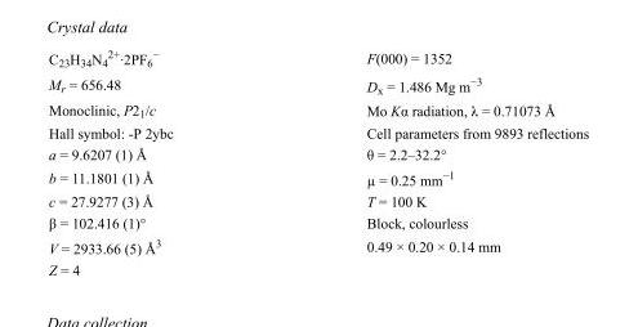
<table><tbody><tr><td>C<sub>23</sub>H<sub>34</sub>N<sub>4</sub> <sup>2+</sup>·2PF<sub>6</sub> <sup>−</sup></td><td>F(000) = 1352</td></tr><tr><td>M<sub>r</sub> = 656.48</td><td>D<sub>x</sub> = 1.486 Mg m<sup>−3</sup></td></tr><tr><td>Monoclinic, P2<sub>1</sub>/c</td><td>Mo Kα radiation, λ = 0.71073 Å</td></tr><tr><td>Hall symbol: -P 2ybc</td><td>Cell parameters from 9893 reflections</td></tr><tr><td>a = 9.6207 (1) Å</td><td>θ = 2.2–32.2°</td></tr><tr><td>b = 11.1801 (1) Å</td><td>µ = 0.25 mm<sup>−1</sup></td></tr><tr><td>c = 27.9277 (3) Å</td><td>T = 100 K</td></tr><tr><td>β = 102.416 (1)°</td><td>Block, colourless</td></tr><tr><td>V = 2933.66 (5) Å<sup>3</sup></td><td>0.49 × 0.20 × 0.14 mm</td></tr><tr><td>Z = 4</td><td></td></tr></tbody></table>